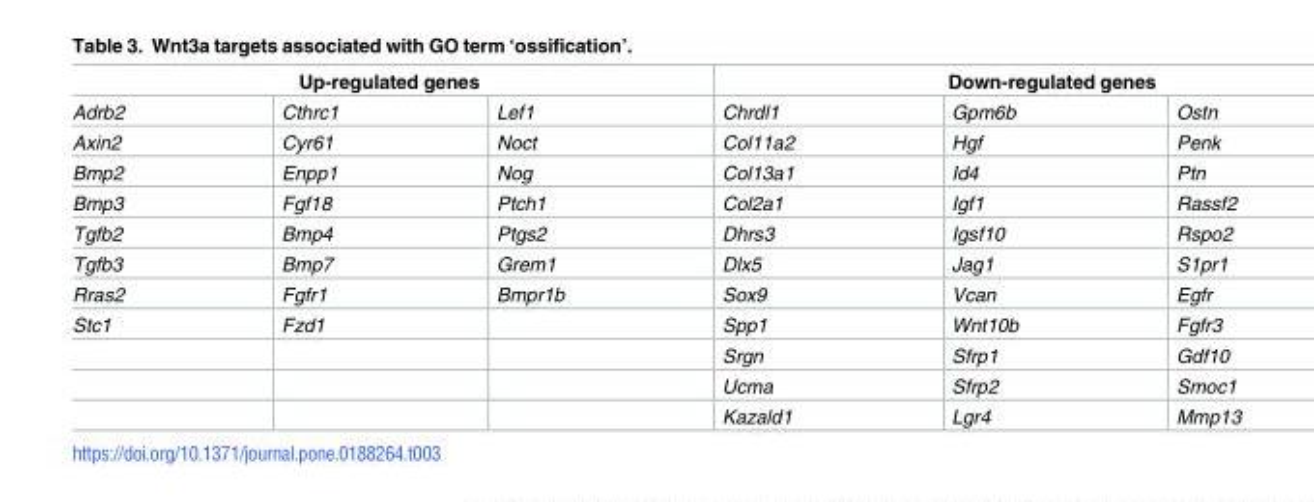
<table><thead><tr><td colspan="3">Up-regulated genes</td><td colspan="3">Down-regulated genes</td></tr><tr><td>Adrb2</td><td>Cthrc1</td><td>Lef1</td><td>Chrdl1</td><td>Gpm6b</td><td>Ostn</td></tr></thead><tbody><tr><td>Axin2</td><td>Cyr61</td><td>Noct</td><td>Col11a2</td><td>Hgf</td><td>Penk</td></tr><tr><td>Bmp2</td><td>Enpp1</td><td>Nog</td><td>Col13a1</td><td>Id4</td><td>Ptn</td></tr><tr><td>Bmp3</td><td>Fgf18</td><td>Ptch1</td><td>Col2a1</td><td>Igf1</td><td>Rassf2</td></tr><tr><td>Tgfb2</td><td>Bmp4</td><td>Ptgs2</td><td>Dhrs3</td><td>Igsf10</td><td>Rspo2</td></tr><tr><td>Tgfb3</td><td>Bmp7</td><td>Grem1</td><td>Dlx5</td><td>Jag1</td><td>S1pr1</td></tr><tr><td>Rras2</td><td>Fgfr1</td><td>Bmpr1b</td><td>Sox9</td><td>Vcan</td><td>Egfr</td></tr><tr><td rowspan="4">Stc1</td><td>Fzd1</td><td></td><td>Spp1</td><td>Wnt10b</td><td>Fgfr3</td></tr><tr><td></td><td></td><td>Srgn</td><td>Sfrp1</td><td>Gdf10</td></tr><tr><td></td><td></td><td>Ucma</td><td>Sfrp2</td><td>Smoc1</td></tr><tr><td></td><td></td><td>Kazald1</td><td>Lgr4</td><td>Mmp13</td></tr></tbody></table>